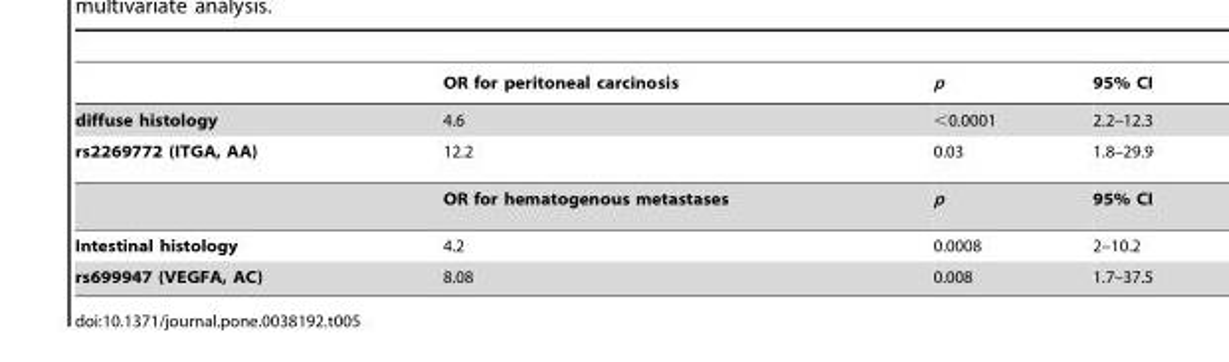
<table><thead><tr><td></td><td>OR for peritoneal carcinosis</td><td>p</td><td>95% CI</td></tr></thead><tbody><tr><td>diffuse histology</td><td>4.6</td><td>&lt;0.0001</td><td>2.2–12.3</td></tr><tr><td rowspan="2">rs2269772 (ITGA, AA)</td><td>12.2</td><td>0.03</td><td>1.8–29.9</td></tr><tr><td>OR for hematogenous metastases</td><td>p</td><td>95% CI</td></tr><tr><td>Intestinal histology</td><td>4.2</td><td>0.0008</td><td>2–10.2</td></tr><tr><td>rs699947 (VEGFA, AC)</td><td>8.08</td><td>0.008</td><td>1.7–37.5</td></tr></tbody></table>